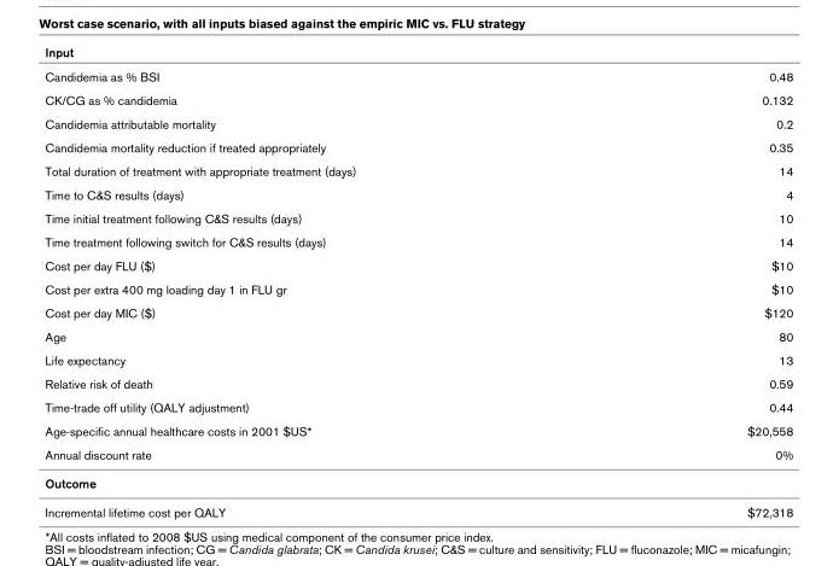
<table><thead><tr><td>Input</td><td></td></tr></thead><tbody><tr><td>Candidemia as % BSI</td><td>0.48</td></tr><tr><td>CK/CG as % candidemia</td><td>0.132</td></tr><tr><td>Candidemia attributable mortality</td><td>0.2</td></tr><tr><td>Candidemia mortality reduction if treated appropriately</td><td>0.35</td></tr><tr><td>Total duration of treatment with appropriate treatment (days)</td><td>14</td></tr><tr><td>Time to C&amp;S results (days)</td><td>4</td></tr><tr><td>Time initial treatment following C&amp;S results (days)</td><td>10</td></tr><tr><td>Time treatment following switch for C&amp;S results (days)</td><td>14</td></tr><tr><td>Cost per day FLU ($)</td><td>$10</td></tr><tr><td>Cost per extra 400 mg loading day 1 in FLU gr</td><td>$10</td></tr><tr><td>Cost per day MIC ($)</td><td>$120</td></tr><tr><td>Age</td><td>80</td></tr><tr><td>Life expectancy</td><td>13</td></tr><tr><td>Relative risk of death</td><td>0.59</td></tr><tr><td>Time-trade off utility (QALY adjustment)</td><td>0.44</td></tr><tr><td>Age-specific annual healthcare costs in 2001 $US*</td><td>$20,558</td></tr><tr><td>Annual discount rate</td><td>0%</td></tr><tr><td colspan="2">Outcome</td></tr><tr><td>Incremental lifetime cost per QALY</td><td>$72,318</td></tr></tbody></table>